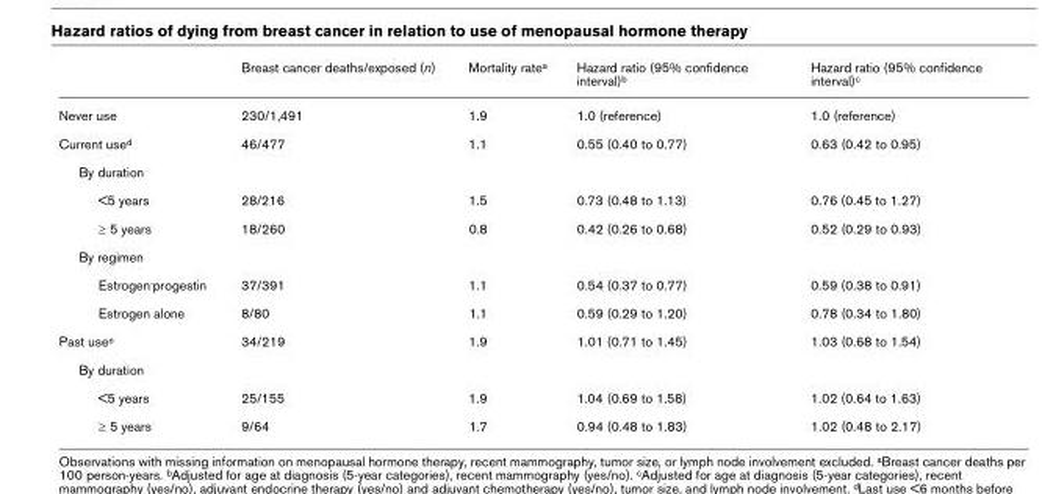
<table><thead><tr><td></td><td>Breast cancer deaths/exposed (n)</td><td>Mortality rate<sup>a</sup></td><td>Hazard ratio (95% confidence interval)<sup>b</sup></td><td>Hazard ratio (95% confidence interval)<sup>c</sup></td></tr></thead><tbody><tr><td>Never use</td><td>230/1,491</td><td>1.9</td><td>1.0 (reference)</td><td>1.0 (reference)</td></tr><tr><td>Current use<sup>d</sup></td><td>46/477</td><td>1.1</td><td>0.55 (0.40 to 0.77)</td><td>0.63 (0.42 to 0.95)</td></tr><tr><td colspan="5">By duration</td></tr><tr><td>&lt;5 years</td><td>28/216</td><td>1.5</td><td>0.73 (0.48 to 1.13)</td><td>0.76 (0.45 to 1.27)</td></tr><tr><td>≥ 5 years</td><td>18/260</td><td>0.8</td><td>0.42 (0.26 to 0.68)</td><td>0.52 (0.29 to 0.93)</td></tr><tr><td colspan="5">By regimen</td></tr><tr><td>Estrogen<sup>-</sup>progestin</td><td>37/391</td><td>1.1</td><td>0.54 (0.37 to 0.77)</td><td>0.59 (0.38 to 0.91)</td></tr><tr><td>Estrogen alone</td><td>8/80</td><td>1.1</td><td>0.59 (0.29 to 1.20)</td><td>0.78 (0.34 to 1.80)</td></tr><tr><td>Past use<sup>e</sup></td><td>34/219</td><td>1.9</td><td>1.01 (0.71 to 1.45)</td><td>1.03 (0.68 to 1.54)</td></tr><tr><td colspan="5">By duration</td></tr><tr><td>&lt;5 years</td><td>25/155</td><td>1.9</td><td>1.04 (0.69 to 1.58)</td><td>1.02 (0.64 to 1.63)</td></tr><tr><td>≥ 5 years</td><td>9/64</td><td>1.7</td><td>0.94 (0.48 to 1.83)</td><td>1.02 (0.48 to 2.17)</td></tr></tbody></table>